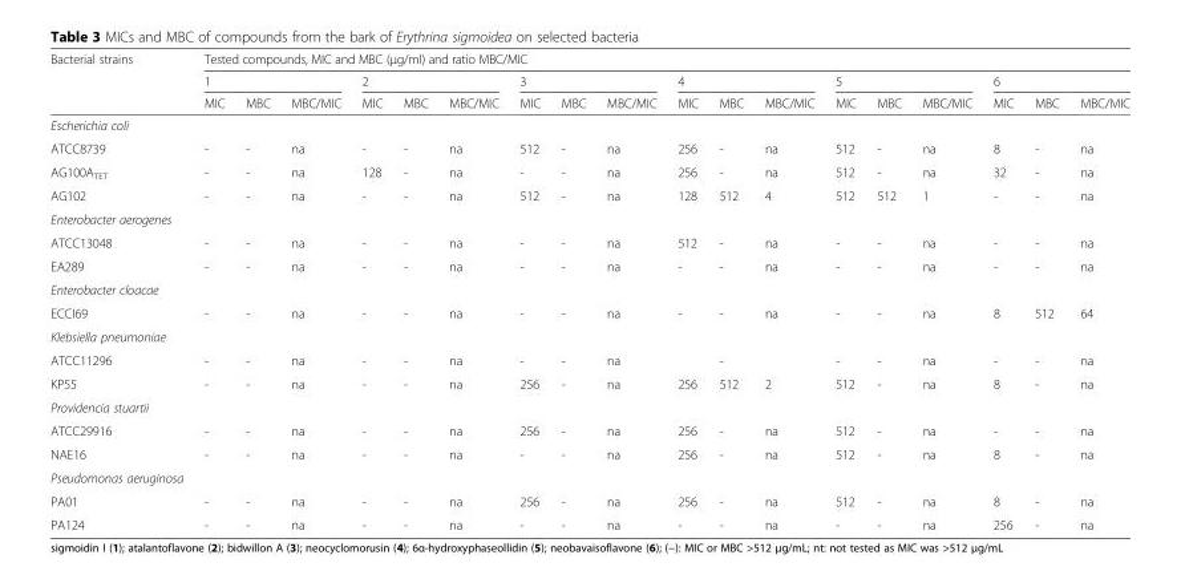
<table><thead><tr><td rowspan="3">Bacterial strains</td><td colspan="18">Tested compounds, MIC and MBC (μg/ml) and ratio MBC/MIC</td></tr><tr><td colspan="3">1</td><td colspan="3">2</td><td colspan="3">3</td><td colspan="3">4</td><td colspan="3">5</td><td colspan="3">6</td></tr><tr><td>MIC</td><td>MBC</td><td>MBC/MIC</td><td>MIC</td><td>MBC</td><td>MBC/MIC</td><td>MIC</td><td>MBC</td><td>MBC/MIC</td><td>MIC</td><td>MBC</td><td>MBC/MIC</td><td>MIC</td><td>MBC</td><td>MBC/MIC</td><td>MIC</td><td>MBC</td><td>MBC/MIC</td></tr></thead><tbody><tr><td colspan="19">Escherichia coli</td></tr><tr><td>ATCC8739</td><td>-</td><td>-</td><td>na</td><td>-</td><td>-</td><td>na</td><td>512</td><td>-</td><td>na</td><td>256</td><td>-</td><td>na</td><td>512</td><td>-</td><td>na</td><td>8</td><td>-</td><td>na</td></tr><tr><td>AG100A<sub>TET</sub></td><td>-</td><td>-</td><td>na</td><td>128</td><td>-</td><td>na</td><td>-</td><td>-</td><td>na</td><td>256</td><td>-</td><td>na</td><td>512</td><td>-</td><td>na</td><td>32</td><td>-</td><td>na</td></tr><tr><td>AG102</td><td>-</td><td>-</td><td>na</td><td>-</td><td>-</td><td>na</td><td>512</td><td>-</td><td>na</td><td>128</td><td>512</td><td>4</td><td>512</td><td>512</td><td>1</td><td>-</td><td>-</td><td>na</td></tr><tr><td colspan="19">Enterobacter aerogenes</td></tr><tr><td>ATCC13048</td><td>-</td><td>-</td><td>na</td><td>-</td><td>-</td><td>na</td><td>-</td><td>-</td><td>na</td><td>512</td><td>-</td><td>na</td><td>-</td><td>-</td><td>na</td><td>-</td><td>-</td><td>na</td></tr><tr><td>EA289</td><td>-</td><td>-</td><td>na</td><td>-</td><td>-</td><td>na</td><td>-</td><td>-</td><td>na</td><td>-</td><td>-</td><td>na</td><td>-</td><td>-</td><td>na</td><td>-</td><td>-</td><td>na</td></tr><tr><td colspan="19">Enterobacter cloacae</td></tr><tr><td>ECCI69</td><td>-</td><td>-</td><td>na</td><td>-</td><td>-</td><td>na</td><td>-</td><td>-</td><td>na</td><td>-</td><td>-</td><td>na</td><td>-</td><td>-</td><td>na</td><td>8</td><td>512</td><td>64</td></tr><tr><td colspan="19">Klebsiella pneumoniae</td></tr><tr><td>ATCC11296</td><td>-</td><td>-</td><td>na</td><td>-</td><td>-</td><td>na</td><td>-</td><td>-</td><td>na</td><td></td><td>-</td><td></td><td>-</td><td>-</td><td>na</td><td>-</td><td>-</td><td>na</td></tr><tr><td>KP55</td><td>-</td><td>-</td><td>na</td><td>-</td><td>-</td><td>na</td><td>256</td><td>-</td><td>na</td><td>256</td><td>512</td><td>2</td><td>512</td><td>-</td><td>na</td><td>8</td><td>-</td><td>na</td></tr><tr><td colspan="19">Providencia stuartii</td></tr><tr><td>ATCC29916</td><td>-</td><td>-</td><td>na</td><td>-</td><td>-</td><td>na</td><td>256</td><td>-</td><td>na</td><td>256</td><td>-</td><td>na</td><td>512</td><td>-</td><td>na</td><td>-</td><td>-</td><td>na</td></tr><tr><td>NAE16</td><td>-</td><td>-</td><td>na</td><td>-</td><td>-</td><td>na</td><td>-</td><td>-</td><td>na</td><td>256</td><td>-</td><td>na</td><td>512</td><td>-</td><td>na</td><td>8</td><td>-</td><td>na</td></tr><tr><td colspan="19">Pseudomonas aeruginosa</td></tr><tr><td>PA01</td><td>-</td><td>-</td><td>na</td><td>-</td><td>-</td><td>na</td><td>256</td><td>-</td><td>na</td><td>256</td><td>-</td><td>na</td><td>512</td><td>-</td><td>na</td><td>8</td><td>-</td><td>na</td></tr><tr><td>PA124</td><td>-</td><td>-</td><td>na</td><td>-</td><td>-</td><td>na</td><td>-</td><td>-</td><td>na</td><td>-</td><td>-</td><td>na</td><td>-</td><td>-</td><td>na</td><td>256</td><td>-</td><td>na</td></tr></tbody></table>